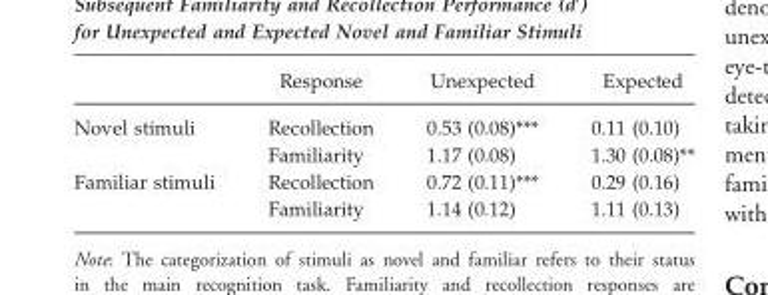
<table><thead><tr><td></td><td>Response</td><td>Unexpected</td><td>Expected</td></tr></thead><tbody><tr><td rowspan="2">Novel stimuli</td><td>Recollection</td><td>0.53 (0.08)***</td><td>0.11 (0.10)</td></tr><tr><td>Familiarity</td><td>1.17 (0.08)</td><td>1.30 (0.08)**</td></tr><tr><td rowspan="2">Familiar stimuli</td><td>Recollection</td><td>0.72 (0.11)***</td><td>0.29 (0.16)</td></tr><tr><td>Familiarity</td><td>1.14 (0.12)</td><td>1.11 (0.13)</td></tr></tbody></table>